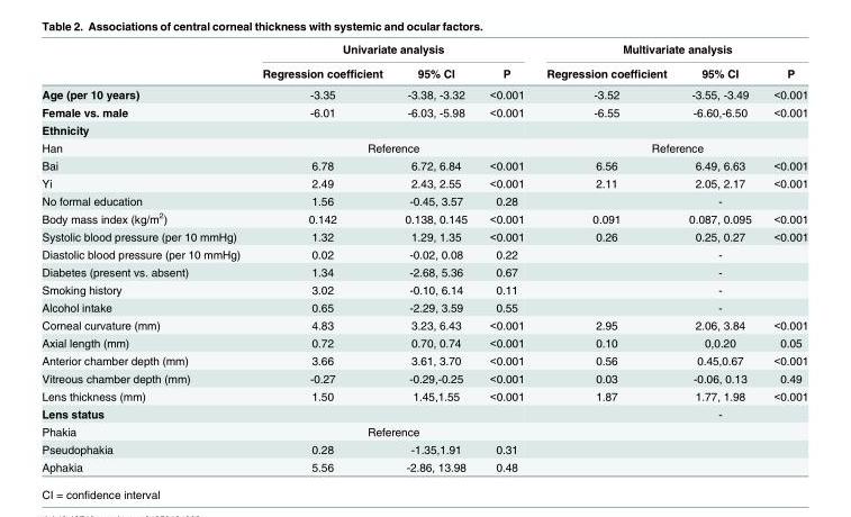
<table><thead><tr><td rowspan="2"></td><td colspan="3">Univariate analysis</td><td colspan="3">Multivariate analysis</td></tr><tr><td>Regression coefficient</td><td>95% CI</td><td>P</td><td>Regression coefficient</td><td>95% CI</td><td>P</td></tr></thead><tbody><tr><td>Age (per 10 years)</td><td>-3.35</td><td>-3.38, -3.32</td><td>&lt;0.001</td><td>-3.52</td><td>-3.55, -3.49</td><td>&lt;0.001</td></tr><tr><td>Female vs. male</td><td>-6.01</td><td>-6.03, -5.98</td><td>&lt;0.001</td><td>-6.55</td><td>-6.60,-6.50</td><td>&lt;0.001</td></tr><tr><td colspan="7">Ethnicity</td></tr><tr><td>Han</td><td colspan="3">Reference</td><td colspan="3">Reference</td></tr><tr><td>Bai</td><td>6.78</td><td>6.72, 6.84</td><td>&lt;0.001</td><td>6.56</td><td>6.49, 6.63</td><td>&lt;0.001</td></tr><tr><td>Yi</td><td>2.49</td><td>2.43, 2.55</td><td>&lt;0.001</td><td>2.11</td><td>2.05, 2.17</td><td>&lt;0.001</td></tr><tr><td>No formal education</td><td>1.56</td><td>-0.45, 3.57</td><td>0.28</td><td></td><td>-</td><td></td></tr><tr><td>Body mass index (kg/m<sup>2</sup>)</td><td>0.142</td><td>0.138, 0.145</td><td>&lt;0.001</td><td>0.091</td><td>0.087, 0.095</td><td>&lt;0.001</td></tr><tr><td>Systolic blood pressure (per 10 mmHg)</td><td>1.32</td><td>1.29, 1.35</td><td>&lt;0.001</td><td>0.26</td><td>0.25, 0.27</td><td>&lt;0.001</td></tr><tr><td>Diastolic blood pressure (per 10 mmHg)</td><td>0.02</td><td>-0.02, 0.08</td><td>0.22</td><td></td><td>-</td><td></td></tr><tr><td>Diabetes (present vs. absent)</td><td>1.34</td><td>-2.68, 5.36</td><td>0.67</td><td></td><td>-</td><td></td></tr><tr><td>Smoking history</td><td>3.02</td><td>-0.10, 6.14</td><td>0.11</td><td></td><td>-</td><td></td></tr><tr><td>Alcohol intake</td><td>0.65</td><td>-2.29, 3.59</td><td>0.55</td><td></td><td>-</td><td></td></tr><tr><td>Corneal curvature (mm)</td><td>4.83</td><td>3.23, 6.43</td><td>&lt;0.001</td><td>2.95</td><td>2.06, 3.84</td><td>&lt;0.001</td></tr><tr><td>Axial length (mm)</td><td>0.72</td><td>0.70, 0.74</td><td>&lt;0.001</td><td>0.10</td><td>0,0.20</td><td>0.05</td></tr><tr><td>Anterior chamber depth (mm)</td><td>3.66</td><td>3.61, 3.70</td><td>&lt;0.001</td><td>0.56</td><td>0.45,0.67</td><td>&lt;0.001</td></tr><tr><td>Vitreous chamber depth (mm)</td><td>-0.27</td><td>-0.29,-0.25</td><td>&lt;0.001</td><td>0.03</td><td>-0.06, 0.13</td><td>0.49</td></tr><tr><td>Lens thickness (mm)</td><td>1.50</td><td>1.45,1.55</td><td>&lt;0.001</td><td>1.87</td><td>1.77, 1.98</td><td>&lt;0.001</td></tr><tr><td>Lens status</td><td></td><td></td><td></td><td></td><td>-</td><td></td></tr><tr><td>Phakia</td><td colspan="3">Reference</td><td></td><td></td><td></td></tr><tr><td>Pseudophakia</td><td>0.28</td><td>-1.35,1.91</td><td>0.31</td><td></td><td></td><td></td></tr><tr><td>Aphakia</td><td>5.56</td><td>-2.86, 13.98</td><td>0.48</td><td></td><td></td><td></td></tr></tbody></table>